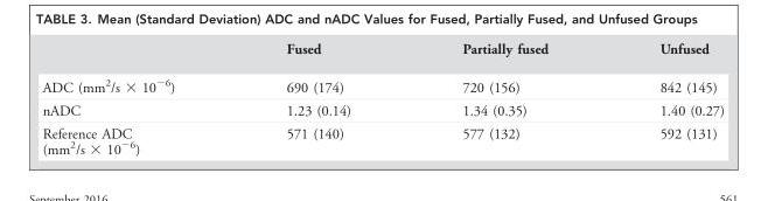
<table><thead><tr><td></td><td>Fused</td><td>Partially fused</td><td>Unfused</td></tr></thead><tbody><tr><td>ADC (mm<sup>2</sup>/s × 10<sup>−6</sup>)</td><td>690 (174)</td><td>720 (156)</td><td>842 (145)</td></tr><tr><td>nADC</td><td>1.23 (0.14)</td><td>1.34 (0.35)</td><td>1.40 (0.27)</td></tr><tr><td>Reference ADC (mm<sup>2</sup>/s × 10<sup>−6</sup>)</td><td>571 (140)</td><td>577 (132)</td><td>592 (131)</td></tr></tbody></table>